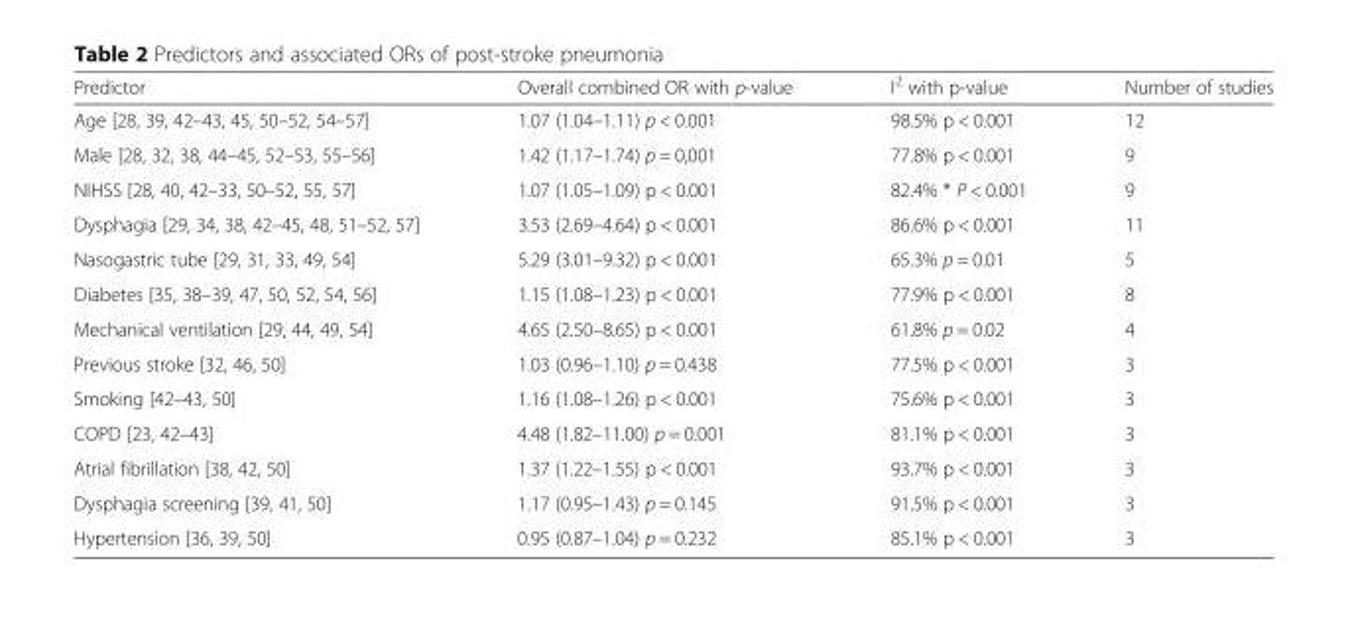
<table><thead><tr><td>Predictor</td><td>Overall combined OR with p-value</td><td>I<sup>2</sup> with p-value</td><td>Number of studies</td></tr></thead><tbody><tr><td>Age [28, 39, 42–43, 45, 50–52, 54–57]</td><td>1.07 (1.04–1.11) p &lt; 0.001</td><td>98.5% p &lt; 0.001</td><td>12</td></tr><tr><td>Male [28, 32, 38, 44–45, 52–53, 55–56]</td><td>1.42 (1.17–1.74) p = 0,001</td><td>77.8% p &lt; 0.001</td><td>9</td></tr><tr><td>NIHSS [28, 40, 42–33, 50–52, 55, 57]</td><td>1.07 (1.05–1.09) p &lt; 0.001</td><td>82.4% * P &lt; 0.001</td><td>9</td></tr><tr><td>Dysphagia [29, 34, 38, 42–45, 48, 51–52, 57]</td><td>3.53 (2.69–4.64) p &lt; 0.001</td><td>86.6% p &lt; 0.001</td><td>11</td></tr><tr><td>Nasogastric tube [29, 31, 33, 49, 54]</td><td>5.29 (3.01–9.32) p &lt; 0.001</td><td>65.3% p = 0.01</td><td>5</td></tr><tr><td>Diabetes [35, 38–39, 47, 50, 52, 54, 56]</td><td>1.15 (1.08–1.23) p &lt; 0.001</td><td>77.9% p &lt; 0.001</td><td>8</td></tr><tr><td>Mechanical ventilation [29, 44, 49, 54]</td><td>4.65 (2.50–8.65) p &lt; 0.001</td><td>61.8% p = 0.02</td><td>4</td></tr><tr><td>Previous stroke [32, 46, 50]</td><td>1.03 (0.96–1.10) p = 0.438</td><td>77.5% p &lt; 0.001</td><td>3</td></tr><tr><td>Smoking [42–43, 50]</td><td>1.16 (1.08–1.26) p &lt; 0.001</td><td>75.6% p &lt; 0.001</td><td>3</td></tr><tr><td>COPD [23, 42–43]</td><td>4.48 (1.82–11.00) p = 0.001</td><td>81.1% p &lt; 0.001</td><td>3</td></tr><tr><td>Atrial fibrillation [38, 42, 50]</td><td>1.37 (1.22–1.55) p &lt; 0.001</td><td>93.7% p &lt; 0.001</td><td>3</td></tr><tr><td>Dysphagia screening [39, 41, 50]</td><td>1.17 (0.95–1.43) p = 0.145</td><td>91.5% p &lt; 0.001</td><td>3</td></tr><tr><td>Hypertension [36, 39, 50]</td><td>0.95 (0.87–1.04) p = 0.232</td><td>85.1% p &lt; 0.001</td><td>3</td></tr></tbody></table>